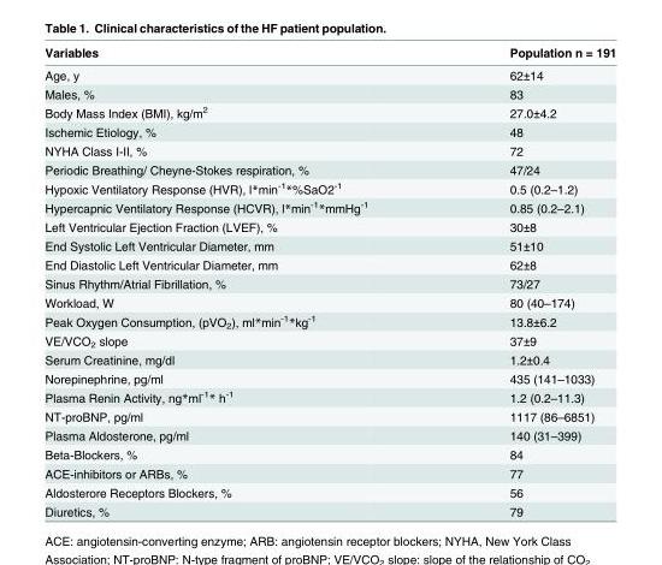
<table><thead><tr><td>Variables</td><td>Population n = 191</td></tr></thead><tbody><tr><td>Age, y</td><td>62±14</td></tr><tr><td>Males, %</td><td>83</td></tr><tr><td>Body Mass Index (BMI), kg/m<sup>2</sup></td><td>27.0±4.2</td></tr><tr><td>Ischemic Etiology, %</td><td>48</td></tr><tr><td>NYHA Class I-II, %</td><td>72</td></tr><tr><td>Periodic Breathing/ Cheyne-Stokes respiration, %</td><td>47/24</td></tr><tr><td>Hypoxic Ventilatory Response (HVR), l*min<sup>-1</sup>*%SaO2<sup>-1</sup></td><td>0.5 (0.2–1.2)</td></tr><tr><td>Hypercapnic Ventilatory Response (HCVR), l*min<sup>-1</sup>*mmHg<sup>-1</sup></td><td>0.85 (0.2–2.1)</td></tr><tr><td>Left Ventricular Ejection Fraction (LVEF), %</td><td>30±8</td></tr><tr><td>End Systolic Left Ventricular Diameter, mm</td><td>51±10</td></tr><tr><td>End Diastolic Left Ventricular Diameter, mm</td><td>62±8</td></tr><tr><td>Sinus Rhythm/Atrial Fibrillation, %</td><td>73/27</td></tr><tr><td>Workload, W</td><td>80 (40–174)</td></tr><tr><td>Peak Oxygen Consumption, (pVO<sub>2</sub>), ml*min<sup>-1</sup>*kg<sup>-1</sup></td><td>13.8±6.2</td></tr><tr><td>VE/VCO<sub>2</sub> slope</td><td>37±9</td></tr><tr><td>Serum Creatinine, mg/dl</td><td>1.2±0.4</td></tr><tr><td>Norepinephrine, pg/ml</td><td>435 (141–1033)</td></tr><tr><td>Plasma Renin Activity, ng*ml<sup>-1</sup>* h<sup>-1</sup></td><td>1.2 (0.2–11.3)</td></tr><tr><td>NT-proBNP, pg/ml</td><td>1117 (86–6851)</td></tr><tr><td>Plasma Aldosterone, pg/ml</td><td>140 (31–399)</td></tr><tr><td>Beta-Blockers, %</td><td>84</td></tr><tr><td>ACE-inhibitors or ARBs, %</td><td>77</td></tr><tr><td>Aldosterore Receptors Blockers, %</td><td>56</td></tr><tr><td>Diuretics, %</td><td>79</td></tr></tbody></table>